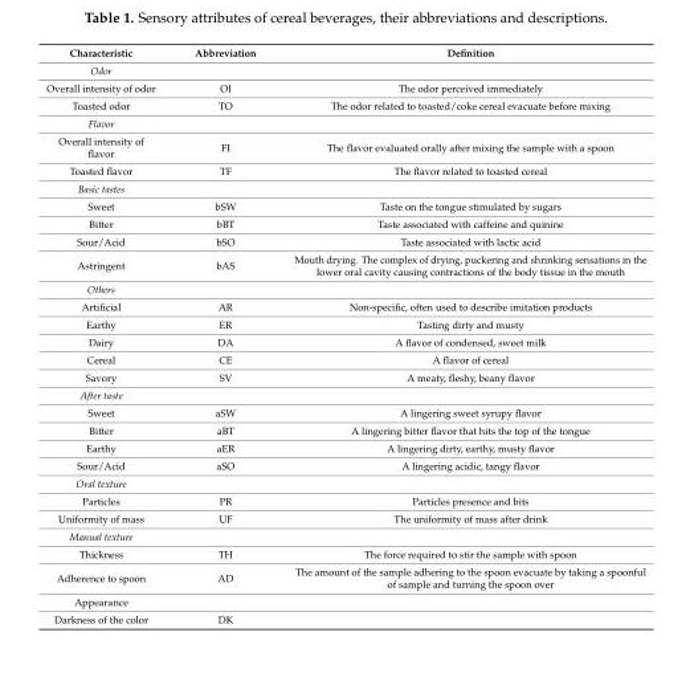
<table><thead><tr><td>Characteristic</td><td>Abbreviation</td><td>Definition</td></tr></thead><tbody><tr><td colspan="3">Odor</td></tr><tr><td>Overall intensity of odor</td><td>OI</td><td>The odor perceived immediately</td></tr><tr><td>Toasted odor</td><td>TO</td><td>The odor related to toasted/coke cereal evacuate before mixing</td></tr><tr><td colspan="3">Flavor</td></tr><tr><td>Overall intensity of flavor</td><td>FI</td><td>The flavor evaluated orally after mixing the sample with a spoon</td></tr><tr><td>Toasted flavor</td><td>TF</td><td>The flavor related to toasted cereal</td></tr><tr><td colspan="3">Basic tastes</td></tr><tr><td>Sweet</td><td>bSW</td><td>Taste on the tongue stimulated by sugars</td></tr><tr><td>Bitter</td><td>bBT</td><td>Taste associated with caffeine and quinine</td></tr><tr><td>Sour/Acid</td><td>bSO</td><td>Taste associated with lactic acid</td></tr><tr><td>Astringent</td><td>bAS</td><td>Mouth drying. The complex of drying, puckering and shrinking sensations in the lower oral cavity causing contractions of the body tissue in the mouth</td></tr><tr><td colspan="3">Others</td></tr><tr><td>Artificial</td><td>AR</td><td>Non-specific, often used to describe imitation products</td></tr><tr><td>Earthy</td><td>ER</td><td>Tasting dirty and musty</td></tr><tr><td>Dairy</td><td>DA</td><td>A flavor of condensed, sweet milk</td></tr><tr><td>Cereal</td><td>CE</td><td>A flavor of cereal</td></tr><tr><td>Savory</td><td>SV</td><td>A meaty, fleshy, beany flavor</td></tr><tr><td colspan="3">After taste</td></tr><tr><td>Sweet</td><td>aSW</td><td>A lingering sweet syrupy flavor</td></tr><tr><td>Bitter</td><td>aBT</td><td>A lingering bitter flavor that hits the top of the tongue</td></tr><tr><td>Earthy</td><td>aER</td><td>A lingering dirty, earthy, musty flavor</td></tr><tr><td>Sour/Acid</td><td>aSO</td><td>A lingering acidic, tangy flavor</td></tr><tr><td colspan="3">Oral texture</td></tr><tr><td>Particles</td><td>PR</td><td>Particles presence and bits</td></tr><tr><td>Uniformity of mass</td><td>UF</td><td>The uniformity of mass after drink</td></tr><tr><td colspan="3">Manual texture</td></tr><tr><td>Thickness</td><td>TH</td><td>The force required to stir the sample with spoon</td></tr><tr><td>Adherence to spoon</td><td>AD</td><td>The amount of the sample adhering to the spoon evacuate by taking a spoonful of sample and turning the spoon over</td></tr><tr><td colspan="3">Appearance</td></tr><tr><td>Darkness of the color</td><td>DK</td><td></td></tr></tbody></table>